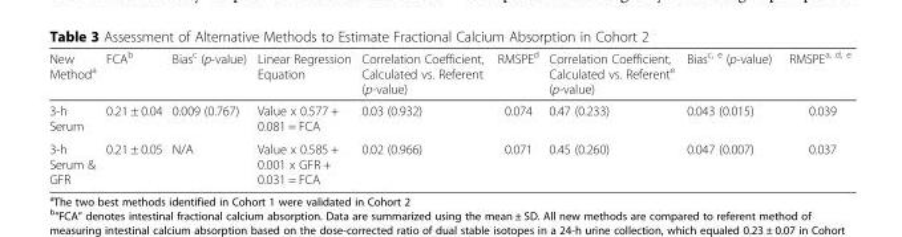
<table><thead><tr><td>New Method<sup>a</sup></td><td>FCA<sup>b</sup></td><td>Bias<sup>c</sup> (p-value)</td><td>Linear Regression Equation</td><td>Correlation Coefficient, Calculated vs. Referent (p-value)</td><td>RMSPE<sup>d</sup></td><td>Correlation Coefficient, Calculated vs. Referent<sup>e</sup> (p-value)</td><td>Bias<sup>c, e</sup> (p-value)</td><td>RMSPE<sup>a, d, e</sup></td></tr></thead><tbody><tr><td>3-h Serum</td><td>0.21 ± 0.04</td><td>0.009 (0.767)</td><td>Value x 0.577 + 0.081 = FCA</td><td>0.03 (0.932)</td><td>0.074</td><td>0.47 (0.233)</td><td>0.043 (0.015)</td><td>0.039</td></tr><tr><td>3-h Serum &amp; GFR</td><td>0.21 ± 0.05</td><td>N/A</td><td>Value x 0.585 + 0.001 x GFR + 0.031 = FCA</td><td>0.02 (0.966)</td><td>0.071</td><td>0.45 (0.260)</td><td>0.047 (0.007)</td><td>0.037</td></tr></tbody></table>